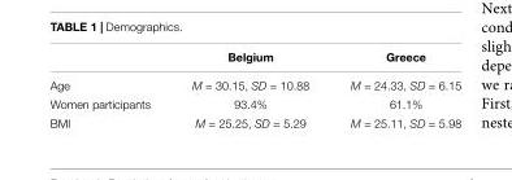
<table><thead><tr><td></td><td>Belgium</td><td>Greece</td></tr></thead><tbody><tr><td>Age</td><td>M = 30.15, SD = 10.88</td><td>M = 24.33, SD = 6.15</td></tr><tr><td>Women participants</td><td>93.4%</td><td>61.1%</td></tr><tr><td>BMI</td><td>M = 25.25, SD = 5.29</td><td>M = 25.11, SD = 5.98</td></tr></tbody></table>